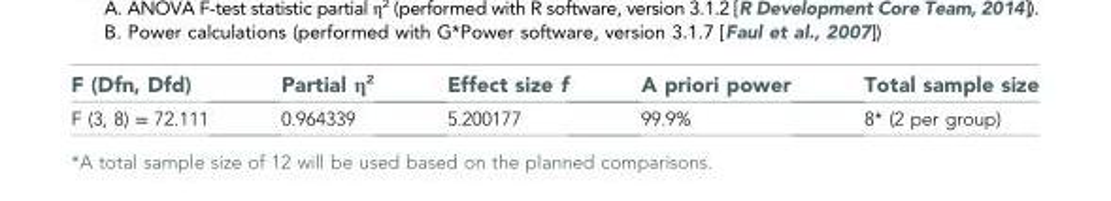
<table><thead><tr><td>F (Dfn, Dfd)</td><td>Partial η<sup>2</sup></td><td>Effect size f</td><td>A priori power</td><td>Total sample size</td></tr></thead><tbody><tr><td>F (3, 8) = 72.111</td><td>0.964339</td><td>5.200177</td><td>99.9%</td><td>8* (2 per group)</td></tr></tbody></table>